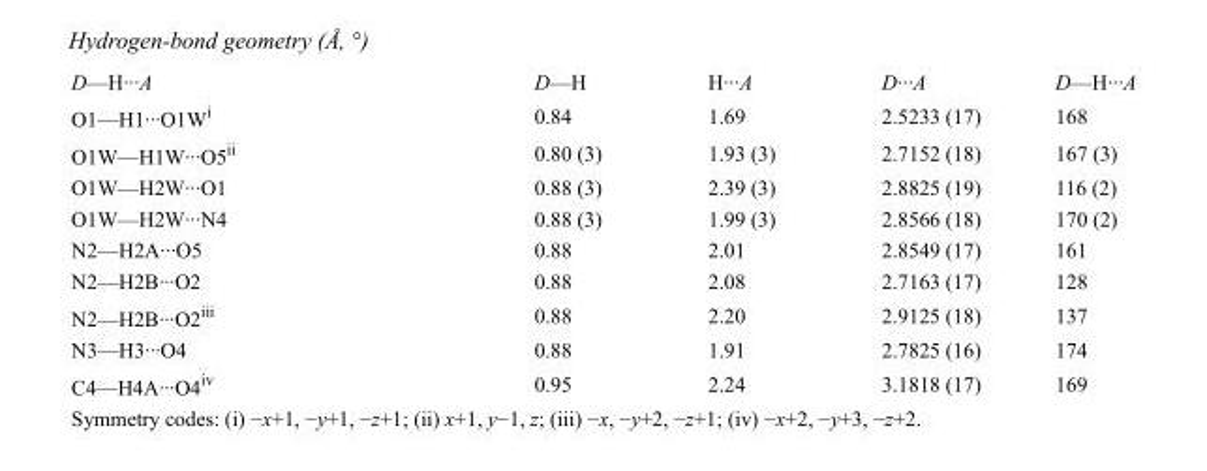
<table><tbody><tr><td>D—H···A</td><td>D—H</td><td>H···A</td><td>D···A</td><td>D—H···A</td></tr><tr><td>O1—H1···O1W<sup>i</sup></td><td>0.84</td><td>1.69</td><td>2.5233 (17)</td><td>168</td></tr><tr><td>O1W—H1W···O5<sup>ii</sup></td><td>0.80 (3)</td><td>1.93 (3)</td><td>2.7152 (18)</td><td>167 (3)</td></tr><tr><td>O1W—H2W···O1</td><td>0.88 (3)</td><td>2.39 (3)</td><td>2.8825 (19)</td><td>116 (2)</td></tr><tr><td>O1W—H2W···N4</td><td>0.88 (3)</td><td>1.99 (3)</td><td>2.8566 (18)</td><td>170 (2)</td></tr><tr><td>N2—H2A···O5</td><td>0.88</td><td>2.01</td><td>2.8549 (17)</td><td>161</td></tr><tr><td>N2—H2B···O2</td><td>0.88</td><td>2.08</td><td>2.7163 (17)</td><td>128</td></tr><tr><td>N2—H2B···O2<sup>iii</sup></td><td>0.88</td><td>2.20</td><td>2.9125 (18)</td><td>137</td></tr><tr><td>N3—H3···O4</td><td>0.88</td><td>1.91</td><td>2.7825 (16)</td><td>174</td></tr><tr><td>C4—H4A···O4<sup>iv</sup></td><td>0.95</td><td>2.24</td><td>3.1818 (17)</td><td>169</td></tr></tbody></table>